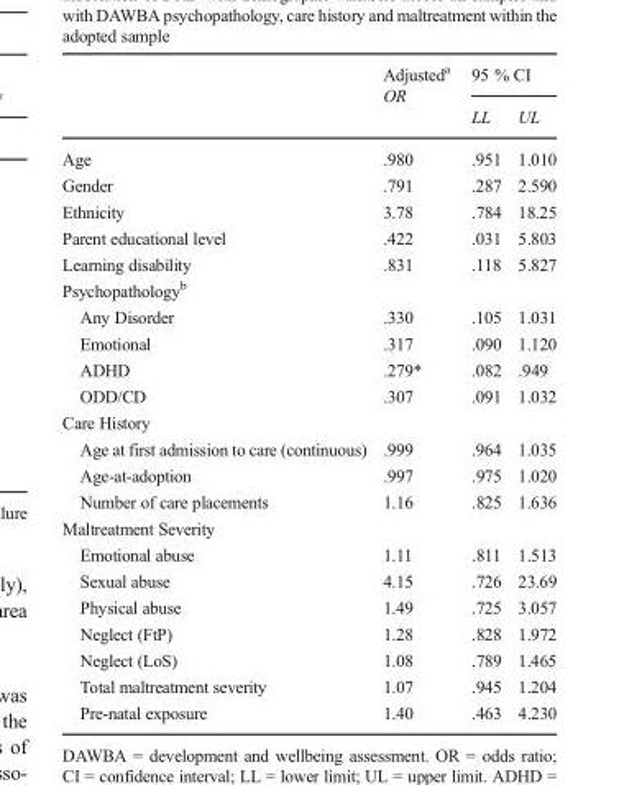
<table><thead><tr><td rowspan="2"></td><td rowspan="2">Adjusted<sup>a</sup> OR</td><td colspan="2">95 % CI</td></tr><tr><td>LL</td><td>UL</td></tr></thead><tbody><tr><td>Age</td><td>.980</td><td>.951</td><td>1.010</td></tr><tr><td>Gender</td><td>.791</td><td>.287</td><td>2.590</td></tr><tr><td>Ethnicity</td><td>3.78</td><td>.784</td><td>18.25</td></tr><tr><td>Parent educational level</td><td>.422</td><td>.031</td><td>5.803</td></tr><tr><td>Learning disability</td><td>.831</td><td>.118</td><td>5.827</td></tr><tr><td colspan="4">Psychopathology<sup>b</sup></td></tr><tr><td>Any Disorder</td><td>.330</td><td>.105</td><td>1.031</td></tr><tr><td>Emotional</td><td>.317</td><td>.090</td><td>1.120</td></tr><tr><td>ADHD</td><td>.279*</td><td>.082</td><td>.949</td></tr><tr><td>ODD/CD</td><td>.307</td><td>.091</td><td>1.032</td></tr><tr><td colspan="4">Care History</td></tr><tr><td>Age at first admission to care (continuous)</td><td>.999</td><td>.964</td><td>1.035</td></tr><tr><td>Age-at-adoption</td><td>.997</td><td>.975</td><td>1.020</td></tr><tr><td>Number of care placements</td><td>1.16</td><td>.825</td><td>1.636</td></tr><tr><td colspan="4">Maltreatment Severity</td></tr><tr><td>Emotional abuse</td><td>1.11</td><td>.811</td><td>1.513</td></tr><tr><td>Sexual abuse</td><td>4.15</td><td>.726</td><td>23.69</td></tr><tr><td>Physical abuse</td><td>1.49</td><td>.725</td><td>3.057</td></tr><tr><td>Neglect (FtP)</td><td>1.28</td><td>.828</td><td>1.972</td></tr><tr><td>Neglect (LoS)</td><td>1.08</td><td>.789</td><td>1.465</td></tr><tr><td>Total maltreatment severity</td><td>1.07</td><td>.945</td><td>1.204</td></tr><tr><td>Pre-natal exposure</td><td>1.40</td><td>.463</td><td>4.230</td></tr></tbody></table>